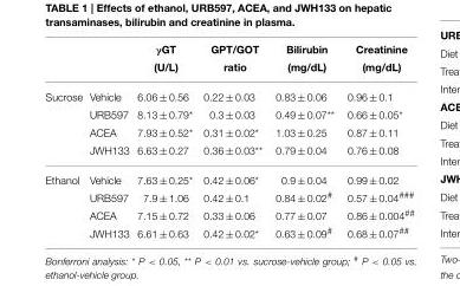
<table><thead><tr><td></td><td></td><td>γGT (U/L)</td><td>GPT/GOT ratio</td><td>Bilirubin (mg/dL)</td><td>Creatinine (mg/dL)</td></tr></thead><tbody><tr><td rowspan="4">Sucrose</td><td>Vehicle</td><td>6.06 ± 0.56</td><td>0.22 ± 0.03</td><td>0.83 ± 0.06</td><td>0.96 ± 0.1</td></tr><tr><td>URB597</td><td>8.13 ± 0.79*</td><td>0.3 ± 0.03</td><td>0.49 ± 0.07**</td><td>0.66 ± 0.05*</td></tr><tr><td>ACEA</td><td>7.93 ± 0.52*</td><td>0.31 ± 0.02*</td><td>1.03 ± 0.25</td><td>0.87 ± 0.11</td></tr><tr><td>JWH133</td><td>6.63 ± 0.27</td><td>0.36 ± 0.03**</td><td>0.79 ± 0.04</td><td>0.76 ± 0.08</td></tr><tr><td rowspan="4">Ethanol</td><td>Vehicle</td><td>7.63 ± 0.25*</td><td>0.42 ± 0.06*</td><td>0.9 ± 0.04</td><td>0.99 ± 0.02</td></tr><tr><td>URB597</td><td>7.9 ± 1.06</td><td>0.42 ± 0.1</td><td>0.84 ± 0.02<sup>#</sup></td><td>0.57 ± 0.04<sup>###</sup></td></tr><tr><td>ACEA</td><td>7.15 ± 0.72</td><td>0.33 ± 0.06</td><td>0.77 ± 0.07</td><td>0.86 ± 0.004<sup>##</sup></td></tr><tr><td>JWH133</td><td>6.61 ± 0.63</td><td>0.42 ± 0.02*</td><td>0.63 ± 0.09<sup>#</sup></td><td>0.68 ± 0.07<sup>##</sup></td></tr></tbody></table>